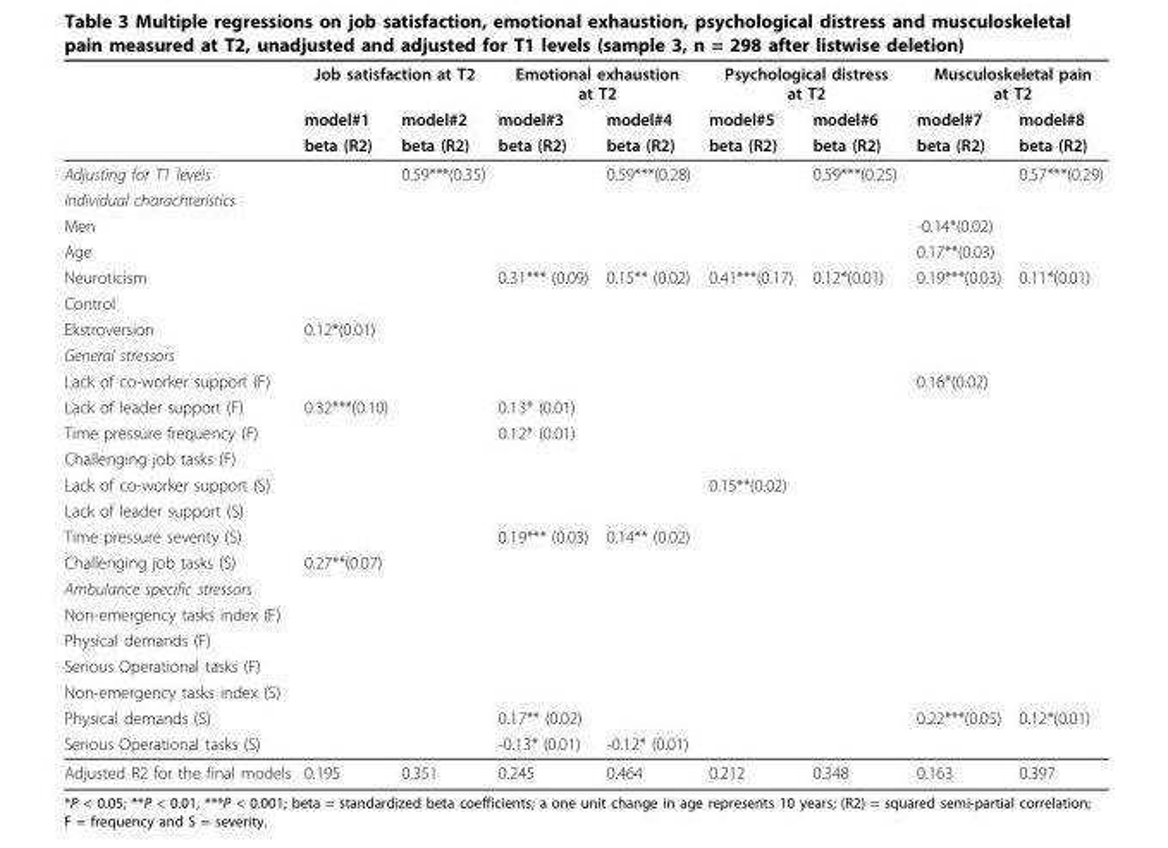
<table><thead><tr><td rowspan="3"></td><td colspan="2">Job satisfaction at T2</td><td colspan="2">Emotional exhaustion at T2</td><td colspan="2">Psychological distress at T2</td><td colspan="2">Musculoskeletal pain at T2</td></tr><tr><td rowspan="2">model#1 beta (R2)</td><td rowspan="2">model#2 beta (R2)</td><td rowspan="2">model#3 beta (R2)</td><td rowspan="2">model#4 beta (R2)</td><td rowspan="2">model#5 beta (R2)</td><td rowspan="2">model#6 beta (R2)</td><td rowspan="2">model#7 beta (R2)</td><td rowspan="2">model#8 beta (R2)</td></tr><tr></tr></thead><tbody><tr><td>Adjusting for T1 levels</td><td></td><td>0.59***(0.35)</td><td></td><td>0.59***(0.28)</td><td></td><td>0.59***(0.25)</td><td></td><td>0.57***(0.29)</td></tr><tr><td colspan="9">Individual charachteristics</td></tr><tr><td>Men</td><td></td><td></td><td></td><td></td><td></td><td></td><td>-0.14*(0.02)</td><td></td></tr><tr><td>Age</td><td></td><td></td><td></td><td></td><td></td><td></td><td>0.17**(0.03)</td><td></td></tr><tr><td>Neuroticism</td><td></td><td></td><td>0.31*** (0.09)</td><td>0.15** (0.02)</td><td>0.41***(0.17)</td><td>0.12*(0.01)</td><td>0.19***(0.03)</td><td>0.11*(0.01)</td></tr><tr><td colspan="9">Control</td></tr><tr><td>Ekstroversion</td><td>0.12*(0.01)</td><td></td><td></td><td></td><td></td><td></td><td></td><td></td></tr><tr><td colspan="9">General stressors</td></tr><tr><td>Lack of co-worker support (F)</td><td></td><td></td><td></td><td></td><td></td><td></td><td>0.16*(0.02)</td><td></td></tr><tr><td>Lack of leader support (F)</td><td>0.32***(0.10)</td><td></td><td>0.13* (0.01)</td><td></td><td></td><td></td><td></td><td></td></tr><tr><td>Time pressure frequency (F)</td><td></td><td></td><td>0.12* (0.01)</td><td></td><td></td><td></td><td></td><td></td></tr><tr><td colspan="9">Challenging job tasks (F)</td></tr><tr><td>Lack of co-worker support (S)</td><td></td><td></td><td></td><td></td><td>0.15**(0.02)</td><td></td><td></td><td></td></tr><tr><td colspan="9">Lack of leader support (S)</td></tr><tr><td>Time pressure severity (S)</td><td></td><td></td><td>0.19*** (0.03)</td><td>0.14** (0.02)</td><td></td><td></td><td></td><td></td></tr><tr><td>Challenging job tasks (S)</td><td>0.27**(0.07)</td><td></td><td></td><td></td><td></td><td></td><td></td><td></td></tr><tr><td colspan="9">Ambulance specific stressors</td></tr><tr><td colspan="9">Non-emergency tasks index (F)</td></tr><tr><td colspan="9">Physical demands (F)</td></tr><tr><td colspan="9">Serious Operational tasks (F)</td></tr><tr><td colspan="9">Non-emergency tasks index (S)</td></tr><tr><td>Physical demands (S)</td><td></td><td></td><td>0.17** (0.02)</td><td></td><td></td><td></td><td>0.22***(0.05)</td><td>0.12*(0.01)</td></tr><tr><td>Serious Operational tasks (S)</td><td></td><td></td><td>-0.13* (0.01)</td><td>-0.12* (0.01)</td><td></td><td></td><td></td><td></td></tr><tr><td>Adjusted R2 for the final models</td><td>0.195</td><td>0.351</td><td>0.245</td><td>0.464</td><td>0.212</td><td>0.348</td><td>0.163</td><td>0.397</td></tr></tbody></table>